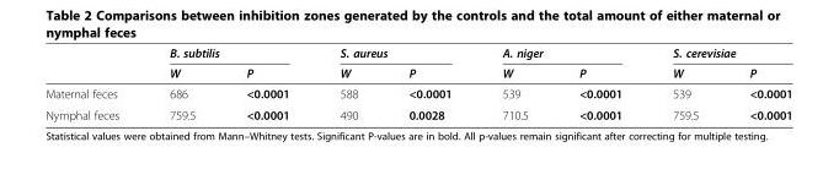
<table><thead><tr><td rowspan="2"></td><td colspan="2">B. subtilis</td><td colspan="2">S. aureus</td><td colspan="2">A. niger</td><td colspan="2">S. cerevisiae</td></tr><tr><td>W</td><td>P</td><td>W</td><td>P</td><td>W</td><td>P</td><td>W</td><td>P</td></tr></thead><tbody><tr><td>Maternal feces</td><td>686</td><td>&lt;0.0001</td><td>588</td><td>&lt;0.0001</td><td>539</td><td>&lt;0.0001</td><td>539</td><td>&lt;0.0001</td></tr><tr><td>Nymphal feces</td><td>759.5</td><td>&lt;0.0001</td><td>490</td><td>0.0028</td><td>710.5</td><td>&lt;0.0001</td><td>759.5</td><td>&lt;0.0001</td></tr></tbody></table>